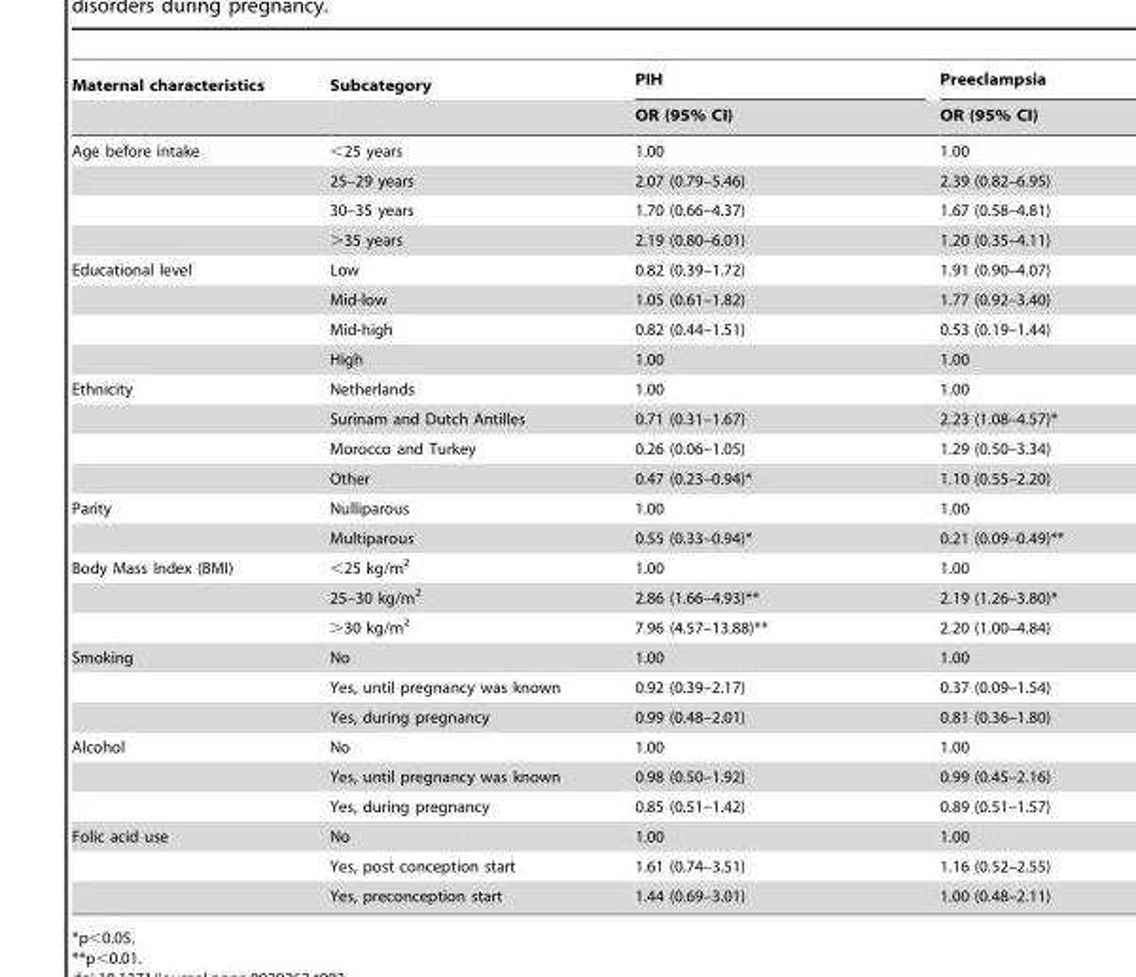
<table><thead><tr><td rowspan="2">Maternal characteristics</td><td rowspan="2">Subcategory</td><td rowspan="2">PIH OR (95% CI)</td><td rowspan="2">Preeclampsia OR (95% CI)</td></tr><tr></tr></thead><tbody><tr><td rowspan="4">Age before intake</td><td>&lt;25 years</td><td>1.00</td><td>1.00</td></tr><tr><td>25–29 years</td><td>2.07 (0.79–5.46)</td><td>2.39 (0.82–6.95)</td></tr><tr><td>30–35 years</td><td>1.70 (0.66–4.37)</td><td>1.67 (0.58–4.81)</td></tr><tr><td>&gt;35 years</td><td>2.19 (0.80–6.01)</td><td>1.20 (0.35–4.11)</td></tr><tr><td rowspan="4">Educational level</td><td>Low</td><td>0.82 (0.39–1.72)</td><td>1.91 (0.90–4.07)</td></tr><tr><td>Mid-low</td><td>1.05 (0.61–1.82)</td><td>1.77 (0.92–3.40)</td></tr><tr><td>Mid-high</td><td>0.82 (0.44–1.51)</td><td>0.53 (0.19–1.44)</td></tr><tr><td>High</td><td>1.00</td><td>1.00</td></tr><tr><td rowspan="4">Ethnicity</td><td>Netherlands</td><td>1.00</td><td>1.00</td></tr><tr><td>Surinam and Dutch Antilles</td><td>0.71 (0.31–1.67)</td><td>2.23 (1.08–4.57)*</td></tr><tr><td>Morocco and Turkey</td><td>0.26 (0.06–1.05)</td><td>1.29 (0.50–3.34)</td></tr><tr><td>Other</td><td>0.47 (0.23–0.94)*</td><td>1.10 (0.55–2.20)</td></tr><tr><td rowspan="2">Parity</td><td>Nulliparous</td><td>1.00</td><td>1.00</td></tr><tr><td>Multiparous</td><td>0.55 (0.33–0.94)*</td><td>0.21 (0.09–0.49)**</td></tr><tr><td rowspan="3">Body Mass Index (BMI)</td><td>&lt;25 kg/m<sup>2</sup></td><td>1.00</td><td>1.00</td></tr><tr><td>25–30 kg/m<sup>2</sup></td><td>2.86 (1.66–4.93)**</td><td>2.19 (1.26–3.80)*</td></tr><tr><td>&gt;30 kg/m<sup>2</sup></td><td>7.96 (4.57–13.88)**</td><td>2.20 (1.00–4.84)</td></tr><tr><td rowspan="3">Smoking</td><td>No</td><td>1.00</td><td>1.00</td></tr><tr><td>Yes, until pregnancy was known</td><td>0.92 (0.39–2.17)</td><td>0.37 (0.09–1.54)</td></tr><tr><td>Yes, during pregnancy</td><td>0.99 (0.48–2.01)</td><td>0.81 (0.36–1.80)</td></tr><tr><td rowspan="3">Alcohol</td><td>No</td><td>1.00</td><td>1.00</td></tr><tr><td>Yes, until pregnancy was known</td><td>0.98 (0.50–1.92)</td><td>0.99 (0.45–2.16)</td></tr><tr><td>Yes, during pregnancy</td><td>0.85 (0.51–1.42)</td><td>0.89 (0.51–1.57)</td></tr><tr><td rowspan="3">Folic acid use</td><td>No</td><td>1.00</td><td>1.00</td></tr><tr><td>Yes, post conception start</td><td>1.61 (0.74–3.51)</td><td>1.16 (0.52–2.55)</td></tr><tr><td>Yes, preconception start</td><td>1.44 (0.69–3.01)</td><td>1.00 (0.48–2.11)</td></tr></tbody></table>